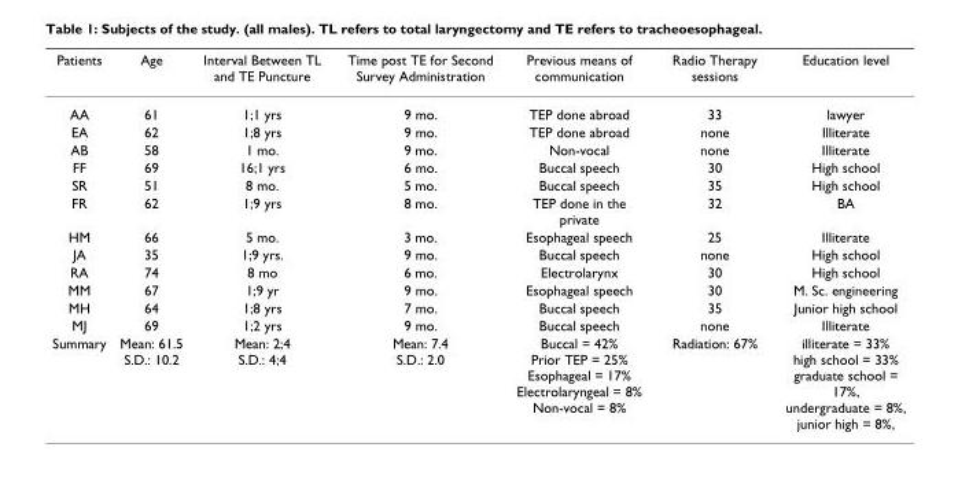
<table><thead><tr><td>Patients</td><td>Age</td><td>Interval Between TL and TE Puncture</td><td>Time post TE for Second Survey Administration</td><td>Previous means of communication</td><td>Radio Therapy sessions</td><td>Education level</td></tr></thead><tbody><tr><td>AA</td><td>61</td><td>1;1 yrs</td><td>9 mo.</td><td>TEP done abroad</td><td>33</td><td>lawyer</td></tr><tr><td>EA</td><td>62</td><td>1;8 yrs</td><td>9 mo.</td><td>TEP done abroad</td><td>none</td><td>Illiterate</td></tr><tr><td>AB</td><td>58</td><td>1 mo.</td><td>9 mo.</td><td>Non-vocal</td><td>none</td><td>Illiterate</td></tr><tr><td>FF</td><td>69</td><td>16;1 yrs</td><td>6 mo.</td><td>Buccal speech</td><td>30</td><td>High school</td></tr><tr><td>SR</td><td>51</td><td>8 mo.</td><td>5 mo.</td><td>Buccal speech</td><td>35</td><td>High school</td></tr><tr><td>FR</td><td>62</td><td>1;9 yrs</td><td>8 mo.</td><td>TEP done in the private</td><td>32</td><td>BA</td></tr><tr><td>HM</td><td>66</td><td>5 mo.</td><td>3 mo.</td><td>Esophageal speech</td><td>25</td><td>Illiterate</td></tr><tr><td>JA</td><td>35</td><td>1;9 yrs.</td><td>9 mo.</td><td>Buccal speech</td><td>none</td><td>High school</td></tr><tr><td>RA</td><td>74</td><td>8 mo</td><td>6 mo.</td><td>Electrolarynx</td><td>30</td><td>High school</td></tr><tr><td>MM</td><td>67</td><td>1;9 yr</td><td>9 mo.</td><td>Esophageal speech</td><td>30</td><td>M. Sc. engineering</td></tr><tr><td>MH</td><td>64</td><td>1;8 yrs</td><td>7 mo.</td><td>Buccal speech</td><td>35</td><td>Junior high school</td></tr><tr><td>MJ</td><td>69</td><td>1;2 yrs</td><td>9 mo.</td><td>Buccal speech</td><td>none</td><td>Illiterate</td></tr><tr><td>Summary</td><td>Mean: 61.5 S.D.: 10.2</td><td>Mean: 2;4 S.D.: 4;4</td><td>Mean: 7.4 S.D.: 2.0</td><td>Buccal = 42% Prior TEP = 25% Esophageal = 17% Electrolaryngeal = 8% Non-vocal = 8%</td><td>Radiation: 67%</td><td>illiterate = 33% high school = 33% graduate school = 17%, undergraduate = 8%, junior high = 8%,</td></tr></tbody></table>